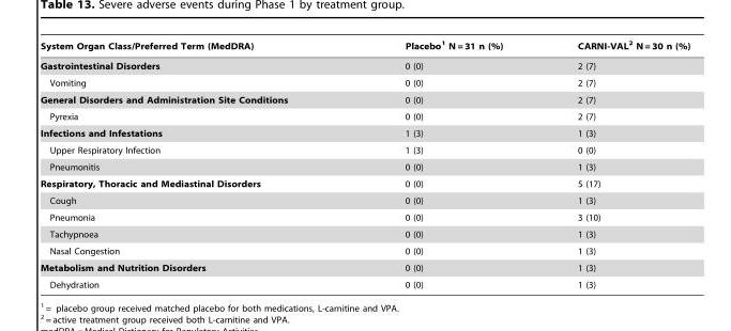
<table><thead><tr><td>System Organ Class/Preferred Term (MedDRA)</td><td>Placebo<sup>1</sup> N = 31 n (%)</td><td>CARNI-VAL<sup>2</sup> N = 30 n (%)</td></tr></thead><tbody><tr><td>Gastrointestinal Disorders</td><td>0 (0)</td><td>2 (7)</td></tr><tr><td>Vomiting</td><td>0 (0)</td><td>2 (7)</td></tr><tr><td>General Disorders and Administration Site Conditions</td><td>0 (0)</td><td>2 (7)</td></tr><tr><td>Pyrexia</td><td>0 (0)</td><td>2 (7)</td></tr><tr><td>Infections and Infestations</td><td>1 (3)</td><td>1 (3)</td></tr><tr><td>Upper Respiratory Infection</td><td>1 (3)</td><td>0 (0)</td></tr><tr><td>Pneumonitis</td><td>0 (0)</td><td>1 (3)</td></tr><tr><td>Respiratory, Thoracic and Mediastinal Disorders</td><td>0 (0)</td><td>5 (17)</td></tr><tr><td>Cough</td><td>0 (0)</td><td>1 (3)</td></tr><tr><td>Pneumonia</td><td>0 (0)</td><td>3 (10)</td></tr><tr><td>Tachypnoea</td><td>0 (0)</td><td>1 (3)</td></tr><tr><td>Nasal Congestion</td><td>0 (0)</td><td>1 (3)</td></tr><tr><td>Metabolism and Nutrition Disorders</td><td>0 (0)</td><td>1 (3)</td></tr><tr><td>Dehydration</td><td>0 (0)</td><td>1 (3)</td></tr></tbody></table>